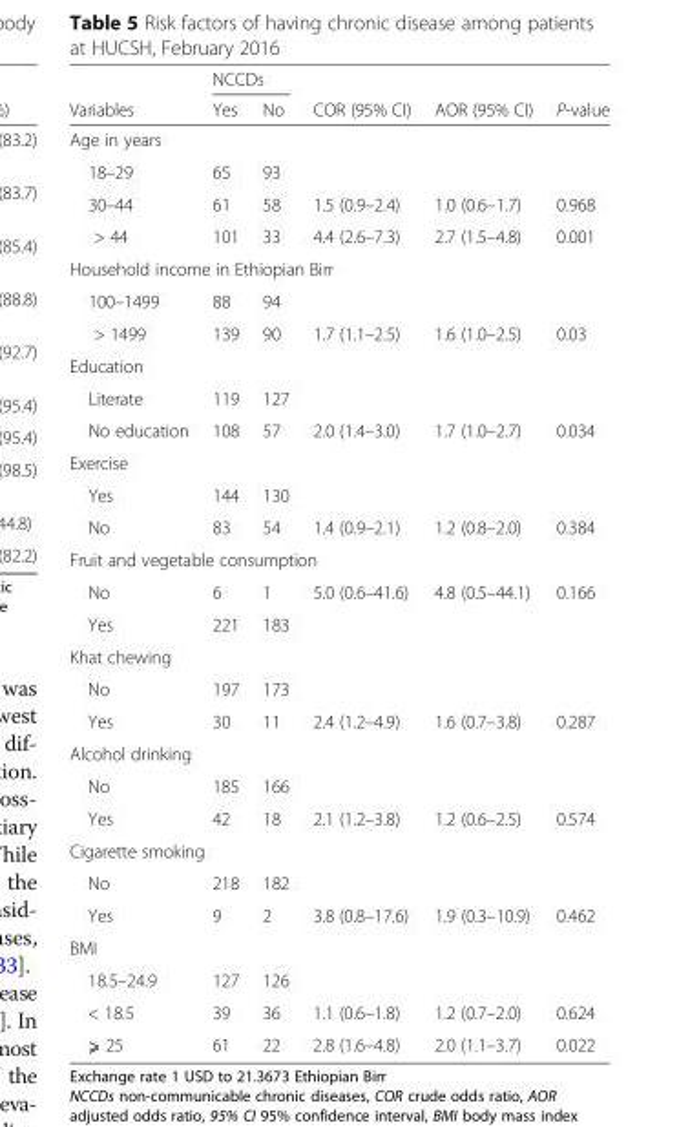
<table><thead><tr><td rowspan="2">Variables</td><td colspan="2">NCCDs</td><td rowspan="2">COR (95% CI)</td><td rowspan="2">AOR (95% CI)</td><td rowspan="2">P-value</td></tr><tr><td>Yes</td><td>No</td></tr></thead><tbody><tr><td colspan="6">Age in years</td></tr><tr><td>18–29</td><td>65</td><td>93</td><td></td><td></td><td></td></tr><tr><td>30–44</td><td>61</td><td>58</td><td>1.5 (0.9–2.4)</td><td>1.0 (0.6–1.7)</td><td>0.968</td></tr><tr><td>&gt; 44</td><td>101</td><td>33</td><td>4.4 (2.6–7.3)</td><td>2.7 (1.5–4.8)</td><td>0.001</td></tr><tr><td colspan="6">Household income in Ethiopian Birr</td></tr><tr><td>100–1499</td><td>88</td><td>94</td><td></td><td></td><td></td></tr><tr><td>&gt; 1499</td><td>139</td><td>90</td><td>1.7 (1.1–2.5)</td><td>1.6 (1.0–2.5)</td><td>0.03</td></tr><tr><td colspan="6">Education</td></tr><tr><td>Literate</td><td>119</td><td>127</td><td></td><td></td><td></td></tr><tr><td>No education</td><td>108</td><td>57</td><td>2.0 (1.4–3.0)</td><td>1.7 (1.0–2.7)</td><td>0.034</td></tr><tr><td colspan="6">Exercise</td></tr><tr><td>Yes</td><td>144</td><td>130</td><td></td><td></td><td></td></tr><tr><td>No</td><td>83</td><td>54</td><td>1.4 (0.9–2.1)</td><td>1.2 (0.8–2.0)</td><td>0.384</td></tr><tr><td colspan="6">Fruit and vegetable consumption</td></tr><tr><td>No</td><td>6</td><td>1</td><td>5.0 (0.6–41.6)</td><td>4.8 (0.5–44.1)</td><td>0.166</td></tr><tr><td>Yes</td><td>221</td><td>183</td><td></td><td></td><td></td></tr><tr><td colspan="6">Khat chewing</td></tr><tr><td>No</td><td>197</td><td>173</td><td></td><td></td><td></td></tr><tr><td>Yes</td><td>30</td><td>11</td><td>2.4 (1.2–4.9)</td><td>1.6 (0.7–3.8)</td><td>0.287</td></tr><tr><td colspan="6">Alcohol drinking</td></tr><tr><td>No</td><td>185</td><td>166</td><td></td><td></td><td></td></tr><tr><td>Yes</td><td>42</td><td>18</td><td>2.1 (1.2–3.8)</td><td>1.2 (0.6–2.5)</td><td>0.574</td></tr><tr><td colspan="6">Cigarette smoking</td></tr><tr><td>No</td><td>218</td><td>182</td><td></td><td></td><td></td></tr><tr><td>Yes</td><td>9</td><td>2</td><td>3.8 (0.8–17.6)</td><td>1.9 (0.3–10.9)</td><td>0.462</td></tr><tr><td colspan="6">BMI</td></tr><tr><td>18.5–24.9</td><td>127</td><td>126</td><td></td><td></td><td></td></tr><tr><td>&lt; 18.5</td><td>39</td><td>36</td><td>1.1 (0.6–1.8)</td><td>1.2 (0.7–2.0)</td><td>0.624</td></tr><tr><td>⩾ 25</td><td>61</td><td>22</td><td>2.8 (1.6–4.8)</td><td>2.0 (1.1–3.7)</td><td>0.022</td></tr></tbody></table>